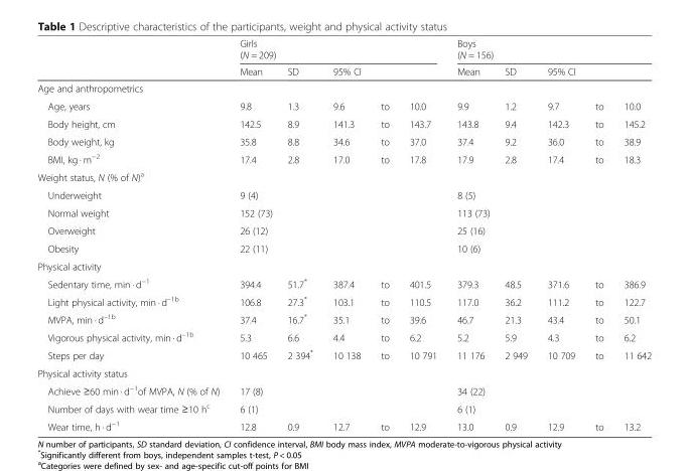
<table><thead><tr><td rowspan="2"></td><td colspan="5">Girls (N = 209)</td><td colspan="5">Boys (N = 156)</td></tr><tr><td>Mean</td><td>SD</td><td colspan="3">95% CI</td><td>Mean</td><td>SD</td><td colspan="3">95% CI</td></tr><tr><td colspan="11">Age and anthropometrics</td></tr><tr><td>Age, years</td><td>9.8</td><td>1.3</td><td>9.6</td><td>to</td><td>10.0</td><td>9.9</td><td>1.2</td><td>9.7</td><td>to</td><td>10.0</td></tr></thead><tbody><tr><td>Body height, cm</td><td>142.5</td><td>8.9</td><td>141.3</td><td>to</td><td>143.7</td><td>143.8</td><td>9.4</td><td>142.3</td><td>to</td><td>145.2</td></tr><tr><td>Body weight, kg</td><td>35.8</td><td>8.8</td><td>34.6</td><td>to</td><td>37.0</td><td>37.4</td><td>9.2</td><td>36.0</td><td>to</td><td>38.9</td></tr><tr><td>BMI, kg · m<sup>−2</sup></td><td>17.4</td><td>2.8</td><td>17.0</td><td>to</td><td>17.8</td><td>17.9</td><td>2.8</td><td>17.4</td><td>to</td><td>18.3</td></tr><tr><td colspan="11">Weight status, N (% of N)<sup>a</sup></td></tr><tr><td>Underweight</td><td colspan="2">9 (4)</td><td></td><td></td><td></td><td colspan="2">8 (5)</td><td></td><td></td><td></td></tr><tr><td>Normal weight</td><td colspan="2">152 (73)</td><td></td><td></td><td></td><td colspan="2">113 (73)</td><td></td><td></td><td></td></tr><tr><td>Overweight</td><td colspan="2">26 (12)</td><td></td><td></td><td></td><td colspan="2">25 (16)</td><td></td><td></td><td></td></tr><tr><td>Obesity</td><td colspan="2">22 (11)</td><td></td><td></td><td></td><td colspan="2">10 (6)</td><td></td><td></td><td></td></tr><tr><td colspan="11">Physical activity</td></tr><tr><td>Sedentary time, min · d<sup>−1</sup></td><td>394.4</td><td>51.7*</td><td>387.4</td><td>to</td><td>401.5</td><td>379.3</td><td>48.5</td><td>371.6</td><td>to</td><td>386.9</td></tr><tr><td>Light physical activity, min · d<sup>–1b</sup></td><td>106.8</td><td>27.3*</td><td>103.1</td><td>to</td><td>110.5</td><td>117.0</td><td>36.2</td><td>111.2</td><td>to</td><td>122.7</td></tr><tr><td>MVPA, min · d<sup>–1b</sup></td><td>37.4</td><td>16.7*</td><td>35.1</td><td>to</td><td>39.6</td><td>46.7</td><td>21.3</td><td>43.4</td><td>to</td><td>50.1</td></tr><tr><td>Vigorous physical activity, min · d<sup>–1b</sup></td><td>5.3</td><td>6.6</td><td>4.4</td><td>to</td><td>6.2</td><td>5.2</td><td>5.9</td><td>4.3</td><td>to</td><td>6.2</td></tr><tr><td>Steps per day</td><td>10 465</td><td>2 394*</td><td>10 138</td><td>to</td><td>10 791</td><td>11 176</td><td>2 949</td><td>10 709</td><td>to</td><td>11 642</td></tr><tr><td colspan="11">Physical activity status</td></tr><tr><td>Achieve ≥60 min · d<sup>−1</sup>of MVPA, N (% of N)</td><td colspan="2">17 (8)</td><td></td><td></td><td></td><td colspan="2">34 (22)</td><td></td><td></td><td></td></tr><tr><td>Number of days with wear time ≥10 h<sup>c</sup></td><td colspan="2">6 (1)</td><td></td><td></td><td></td><td colspan="2">6 (1)</td><td></td><td></td><td></td></tr><tr><td>Wear time, h · d<sup>−1</sup></td><td>12.8</td><td>0.9</td><td>12.7</td><td>to</td><td>12.9</td><td>13.0</td><td>0.9</td><td>12.9</td><td>to</td><td>13.2</td></tr></tbody></table>